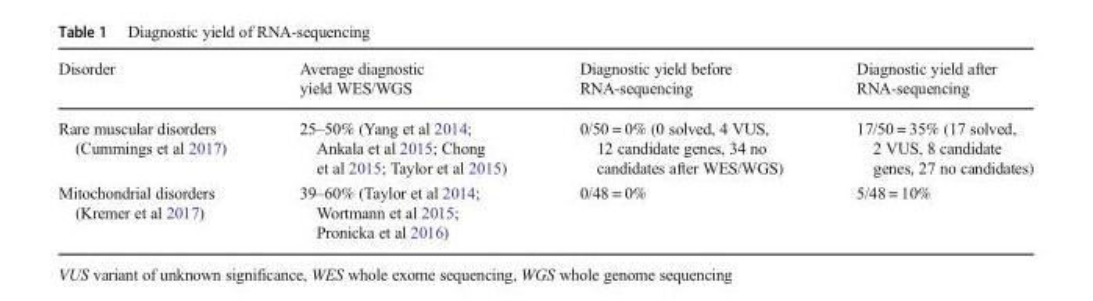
<table><thead><tr><td>Disorder</td><td>Average diagnostic yield WES/WGS</td><td>Diagnostic yield before RNA-sequencing</td><td>Diagnostic yield after RNA-sequencing</td></tr></thead><tbody><tr><td>Rare muscular disorders (Cummings et al 2017)</td><td>25–50% (Yang et al 2014; Ankala et al 2015; Chong et al 2015; Taylor et al 2015)</td><td>0/50 = 0% (0 solved, 4 VUS, 12 candidate genes, 34 no candidates after WES/WGS)</td><td>17/50 = 35% (17 solved, 2 VUS, 8 candidate genes, 27 no candidates)</td></tr><tr><td>Mitochondrial disorders (Kremer et al 2017)</td><td>39–60% (Taylor et al 2014; Wortmann et al 2015; Pronicka et al 2016)</td><td>0/48 = 0%</td><td>5/48 = 10%</td></tr></tbody></table>